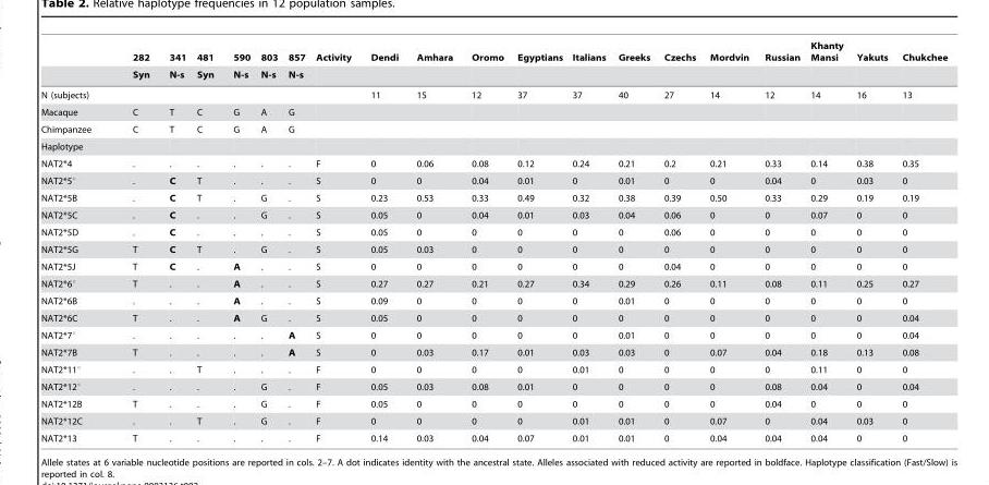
<table><thead><tr><td rowspan="2"></td><td rowspan="2">282 Syn</td><td rowspan="2">341 N-s</td><td rowspan="2">481 Syn</td><td rowspan="2">590 N-s</td><td rowspan="2">803 N-s</td><td rowspan="2">857 N-s</td><td rowspan="2">Activity</td><td rowspan="2">Dendi</td><td rowspan="2">Amhara</td><td rowspan="2">Oromo</td><td rowspan="2">Egyptians</td><td rowspan="2">Italians</td><td rowspan="2">Greeks</td><td rowspan="2">Czechs</td><td rowspan="2">Mordvin</td><td rowspan="2">Russian</td><td rowspan="2">Khanty Mansi</td><td rowspan="2">Yakuts</td><td rowspan="2">Chukchee</td></tr><tr></tr></thead><tbody><tr><td>N (subjects)</td><td></td><td></td><td></td><td></td><td></td><td></td><td></td><td>11</td><td>15</td><td>12</td><td>37</td><td>37</td><td>40</td><td>27</td><td>14</td><td>12</td><td>14</td><td>16</td><td>13</td></tr><tr><td>Macaque</td><td>C</td><td>T</td><td>C</td><td>G</td><td>A</td><td>G</td><td></td><td></td><td></td><td></td><td></td><td></td><td></td><td></td><td></td><td></td><td></td><td></td><td></td></tr><tr><td>Chimpanzee</td><td>C</td><td>T</td><td>C</td><td>G</td><td>A</td><td>G</td><td></td><td></td><td></td><td></td><td></td><td></td><td></td><td></td><td></td><td></td><td></td><td></td><td></td></tr><tr><td colspan="20">Haplotype</td></tr><tr><td>NAT2*4</td><td>.</td><td>.</td><td>.</td><td>.</td><td>.</td><td>.</td><td>F</td><td>0</td><td>0.06</td><td>0.08</td><td>0.12</td><td>0.24</td><td>0.21</td><td>0.2</td><td>0.21</td><td>0.33</td><td>0.14</td><td>0.38</td><td>0.35</td></tr><tr><td>NAT2*5°</td><td>.</td><td>C</td><td>T</td><td>.</td><td>.</td><td>.</td><td>S</td><td>0</td><td>0</td><td>0.04</td><td>0.01</td><td>0</td><td>0.01</td><td>0</td><td>0</td><td>0.04</td><td>0</td><td>0.03</td><td>0</td></tr><tr><td>NAT2*5B</td><td>.</td><td>C</td><td>T</td><td>.</td><td>G</td><td>.</td><td>S</td><td>0.23</td><td>0.53</td><td>0.33</td><td>0.49</td><td>0.32</td><td>0.38</td><td>0.39</td><td>0.50</td><td>0.33</td><td>0.29</td><td>0.19</td><td>0.19</td></tr><tr><td>NAT2*5C</td><td>.</td><td>C</td><td>.</td><td>.</td><td>G</td><td>.</td><td>S</td><td>0.05</td><td>0</td><td>0.04</td><td>0.01</td><td>0.03</td><td>0.04</td><td>0.06</td><td>0</td><td>0</td><td>0.07</td><td>0</td><td>0</td></tr><tr><td>NAT2*5D</td><td>.</td><td>C</td><td>.</td><td>.</td><td>.</td><td>.</td><td>S</td><td>0.05</td><td>0</td><td>0</td><td>0</td><td>0</td><td>0</td><td>0.06</td><td>0</td><td>0</td><td>0</td><td>0</td><td>0</td></tr><tr><td>NAT2*5G</td><td>T</td><td>C</td><td>T</td><td>.</td><td>G</td><td>.</td><td>S</td><td>0.05</td><td>0.03</td><td>0</td><td>0</td><td>0</td><td>0</td><td>0</td><td>0</td><td>0</td><td>0</td><td>0</td><td>0</td></tr><tr><td>NAT2*5J</td><td>T</td><td>C</td><td>.</td><td>A</td><td>.</td><td>.</td><td>S</td><td>0</td><td>0</td><td>0</td><td>0</td><td>0</td><td>0</td><td>0.04</td><td>0</td><td>0</td><td>0</td><td>0</td><td>0</td></tr><tr><td>NAT2*6°</td><td>T</td><td>.</td><td>.</td><td>A</td><td>.</td><td>.</td><td>S</td><td>0.27</td><td>0.27</td><td>0.21</td><td>0.27</td><td>0.34</td><td>0.29</td><td>0.26</td><td>0.11</td><td>0.08</td><td>0.11</td><td>0.25</td><td>0.27</td></tr><tr><td>NAT2*6B</td><td>.</td><td>.</td><td>.</td><td>A</td><td>.</td><td>.</td><td>S</td><td>0.09</td><td>0</td><td>0</td><td>0</td><td>0</td><td>0.01</td><td>0</td><td>0</td><td>0</td><td>0</td><td>0</td><td>0</td></tr><tr><td>NAT2*6C</td><td>T</td><td>.</td><td>.</td><td>A</td><td>G</td><td>.</td><td>S</td><td>0.05</td><td>0</td><td>0</td><td>0</td><td>0</td><td>0</td><td>0</td><td>0</td><td>0</td><td>0</td><td>0</td><td>0.04</td></tr><tr><td>NAT2*7°</td><td>.</td><td>.</td><td>.</td><td>.</td><td>.</td><td>A</td><td>S</td><td>0</td><td>0</td><td>0</td><td>0</td><td>0</td><td>0.01</td><td>0</td><td>0</td><td>0</td><td>0</td><td>0</td><td>0.04</td></tr><tr><td>NAT2*7B</td><td>T</td><td>.</td><td>.</td><td>.</td><td>.</td><td>A</td><td>S</td><td>0</td><td>0.03</td><td>0.17</td><td>0.01</td><td>0.03</td><td>0.03</td><td>0</td><td>0.07</td><td>0.04</td><td>0.18</td><td>0.13</td><td>0.08</td></tr><tr><td>NAT2*11°</td><td>.</td><td>.</td><td>T</td><td>.</td><td>.</td><td>.</td><td>F</td><td>0</td><td>0</td><td>0</td><td>0</td><td>0.01</td><td>0</td><td>0</td><td>0</td><td>0</td><td>0.11</td><td>0</td><td>0</td></tr><tr><td>NAT2*12°</td><td>.</td><td>.</td><td>.</td><td>.</td><td>G</td><td>.</td><td>F</td><td>0.05</td><td>0.03</td><td>0.08</td><td>0.01</td><td>0</td><td>0</td><td>0</td><td>0</td><td>0.08</td><td>0.04</td><td>0</td><td>0.04</td></tr><tr><td>NAT2*12B</td><td>T</td><td>.</td><td>.</td><td>.</td><td>G</td><td>.</td><td>F</td><td>0.05</td><td>0</td><td>0</td><td>0</td><td>0</td><td>0</td><td>0</td><td>0</td><td>0.04</td><td>0</td><td>0</td><td>0</td></tr><tr><td>NAT2*12C</td><td>.</td><td>.</td><td>T</td><td>.</td><td>G</td><td>.</td><td>F</td><td>0</td><td>0</td><td>0</td><td>0</td><td>0.01</td><td>0.01</td><td>0</td><td>0.07</td><td>0</td><td>0.04</td><td>0.03</td><td>0</td></tr><tr><td>NAT2*13</td><td>T</td><td>.</td><td>.</td><td>.</td><td>.</td><td>.</td><td>F</td><td>0.14</td><td>0.03</td><td>0.04</td><td>0.07</td><td>0.01</td><td>0.01</td><td>0</td><td>0.04</td><td>0.04</td><td>0.04</td><td>0</td><td>0</td></tr></tbody></table>